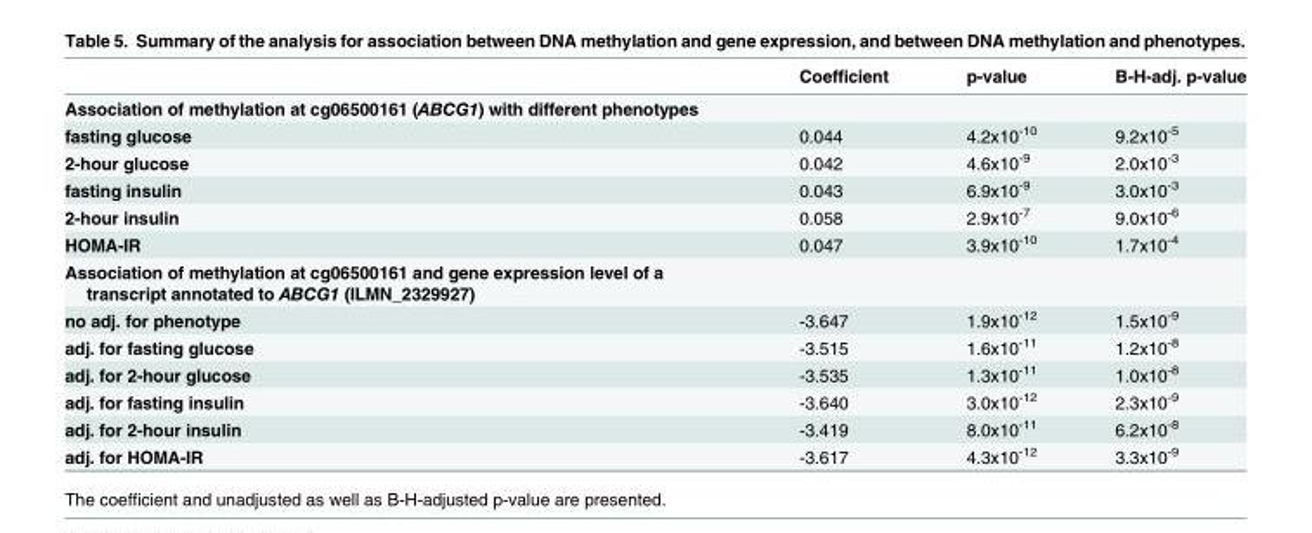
<table><thead><tr><td></td><td>Coefficient</td><td>p-value</td><td>B-H-adj. p-value</td></tr></thead><tbody><tr><td colspan="4">Association of methylation at cg06500161 (ABCG1) with different phenotypes</td></tr><tr><td>fasting glucose</td><td>0.044</td><td>4.2x10<sup>-10</sup></td><td>9.2x10<sup>-5</sup></td></tr><tr><td>2-hour glucose</td><td>0.042</td><td>4.6x10<sup>-9</sup></td><td>2.0x10<sup>-3</sup></td></tr><tr><td>fasting insulin</td><td>0.043</td><td>6.9x10<sup>-9</sup></td><td>3.0x10<sup>-3</sup></td></tr><tr><td>2-hour insulin</td><td>0.058</td><td>2.9x10<sup>-7</sup></td><td>9.0x10<sup>-6</sup></td></tr><tr><td>HOMA-IR</td><td>0.047</td><td>3.9x10<sup>-10</sup></td><td>1.7x10<sup>-4</sup></td></tr><tr><td colspan="4">Association of methylation at cg06500161 and gene expression level of a transcript annotated to ABCG1 (ILMN_2329927)</td></tr><tr><td>no adj. for phenotype</td><td>-3.647</td><td>1.9x10<sup>-12</sup></td><td>1.5x10<sup>-9</sup></td></tr><tr><td>adj. for fasting glucose</td><td>-3.515</td><td>1.6x10<sup>-11</sup></td><td>1.2x10<sup>-8</sup></td></tr><tr><td>adj. for 2-hour glucose</td><td>-3.535</td><td>1.3x10<sup>-11</sup></td><td>1.0x10<sup>-8</sup></td></tr><tr><td>adj. for fasting insulin</td><td>-3.640</td><td>3.0x10<sup>-12</sup></td><td>2.3x10<sup>-9</sup></td></tr><tr><td>adj. for 2-hour insulin</td><td>-3.419</td><td>8.0x10<sup>-11</sup></td><td>6.2x10<sup>-8</sup></td></tr><tr><td>adj. for HOMA-IR</td><td>-3.617</td><td>4.3x10<sup>-12</sup></td><td>3.3x10<sup>-9</sup></td></tr></tbody></table>